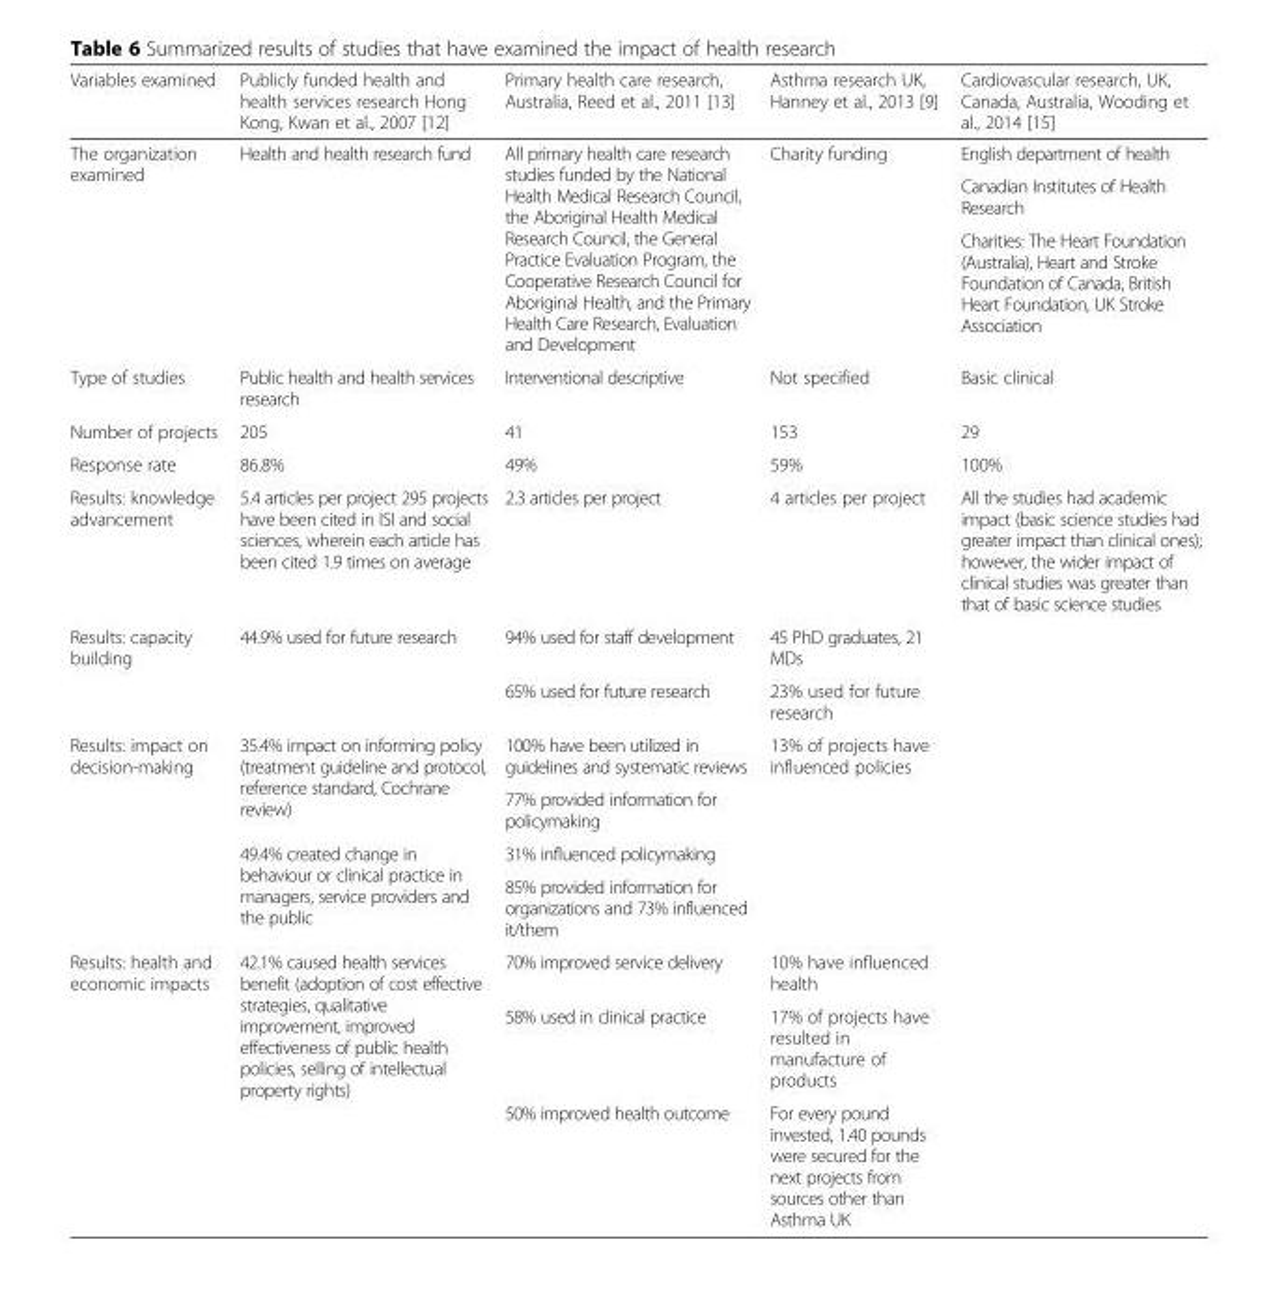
<table><thead><tr><td>Variables examined</td><td>Publicly funded health and health services research Hong Kong, Kwan et al., 2007 [12]</td><td>Primary health care research, Australia, Reed et al., 2011 [13]</td><td>Asthma research UK, Hanney et al., 2013 [9]</td><td>Cardiovascular research, UK, Canada, Australia, Wooding et al., 2014 [15]</td></tr></thead><tbody><tr><td rowspan="3">The organization examined</td><td rowspan="3">Health and health research fund</td><td rowspan="3">All primary health care research studies funded by the National Health Medical Research Council, the Aboriginal Health Medical Research Council, the General Practice Evaluation Program, the Cooperative Research Council for Aboriginal Health, and the Primary Health Care Research, Evaluation and Development</td><td rowspan="3">Charity funding</td><td>English department of health</td></tr><tr><td>Canadian Institutes of Health Research</td></tr><tr><td>Charities: The Heart Foundation (Australia), Heart and Stroke Foundation of Canada, British Heart Foundation, UK Stroke Association</td></tr><tr><td>Type of studies</td><td>Public health and health services research</td><td>Interventional descriptive</td><td>Not specified</td><td>Basic clinical</td></tr><tr><td>Number of projects</td><td>205</td><td>41</td><td>153</td><td>29</td></tr><tr><td>Response rate</td><td>86.8%</td><td>49%</td><td>59%</td><td>100%</td></tr><tr><td>Results: knowledge advancement</td><td>5.4 articles per project 295 projects have been cited in ISI and social sciences, wherein each article has been cited 1.9 times on average</td><td>2.3 articles per project</td><td>4 articles per project</td><td>All the studies had academic impact (basic science studies had greater impact than clinical ones); however, the wider impact of clinical studies was greater than that of basic science studies</td></tr><tr><td rowspan="2">Results: capacity building</td><td rowspan="2">44.9% used for future research</td><td>94% used for staff development</td><td>45 PhD graduates, 21 MDs</td><td rowspan="2"></td></tr><tr><td>65% used for future research</td><td>23% used for future research</td></tr><tr><td rowspan="4">Results: impact on decision-making</td><td rowspan="2">35.4% impact on informing policy (treatment guideline and protocol, reference standard, Cochrane review)</td><td>100% have been utilized in guidelines and systematic reviews</td><td rowspan="4">13% of projects have influenced policies</td><td rowspan="4"></td></tr><tr><td>77% provided information for policymaking</td></tr><tr><td rowspan="2">49.4% created change in behaviour or clinical practice in managers, service providers and the public</td><td>31% influenced policymaking</td></tr><tr><td>85% provided information for organizations and 73% influenced it/them</td></tr><tr><td rowspan="3">Results: health and economic impacts</td><td rowspan="3">42.1% caused health services benefit (adoption of cost effective strategies, qualitative improvement, improved effectiveness of public health policies, selling of intellectual property rights)</td><td>70% improved service delivery</td><td>10% have influenced health</td><td rowspan="3"></td></tr><tr><td>58% used in clinical practice</td><td>17% of projects have resulted in manufacture of products</td></tr><tr><td>50% improved health outcome</td><td>For every pound invested, 1.40 pounds were secured for the next projects from sources other than Asthma UK</td></tr></tbody></table>